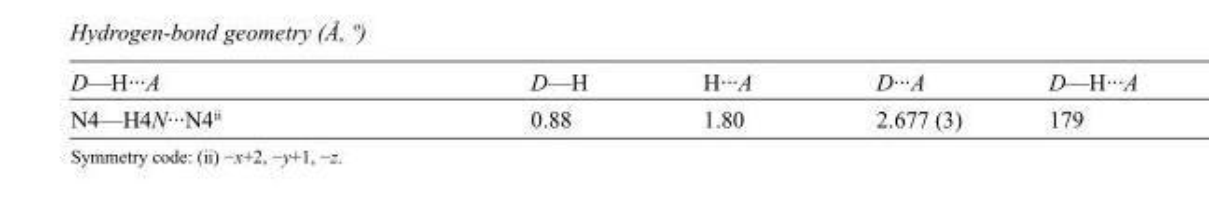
<table><tbody><tr><td>D—H···A</td><td>D—H</td><td>H···A</td><td>D···A</td><td>D—H···A</td></tr><tr><td>N4—H4N···N4<sup>ii</sup></td><td>0.88</td><td>1.80</td><td>2.677 (3)</td><td>179</td></tr></tbody></table>